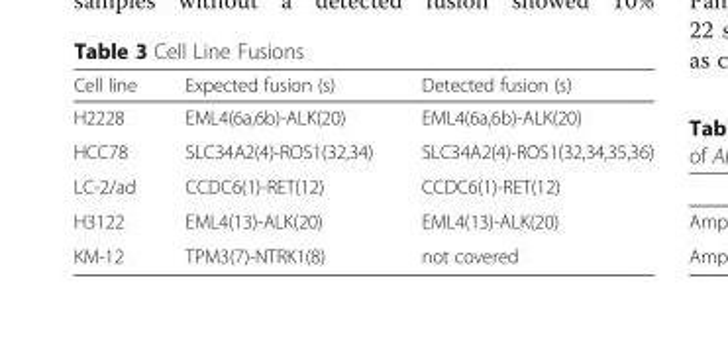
<table><thead><tr><td>Cell line</td><td>Expected fusion (s)</td><td>Detected fusion (s)</td></tr></thead><tbody><tr><td>H2228</td><td>EML4(6a,6b)-ALK(20)</td><td>EML4(6a,6b)-ALK(20)</td></tr><tr><td>HCC78</td><td>SLC34A2(4)-ROS1(32,34)</td><td>SLC34A2(4)-ROS1(32,34,35,36)</td></tr><tr><td>LC-2/ad</td><td>CCDC6(1)-RET(12)</td><td>CCDC6(1)-RET(12)</td></tr><tr><td>H3122</td><td>EML4(13)-ALK(20)</td><td>EML4(13)-ALK(20)</td></tr><tr><td>KM-12</td><td>TPM3(7)-NTRK1(8)</td><td>not covered</td></tr></tbody></table>